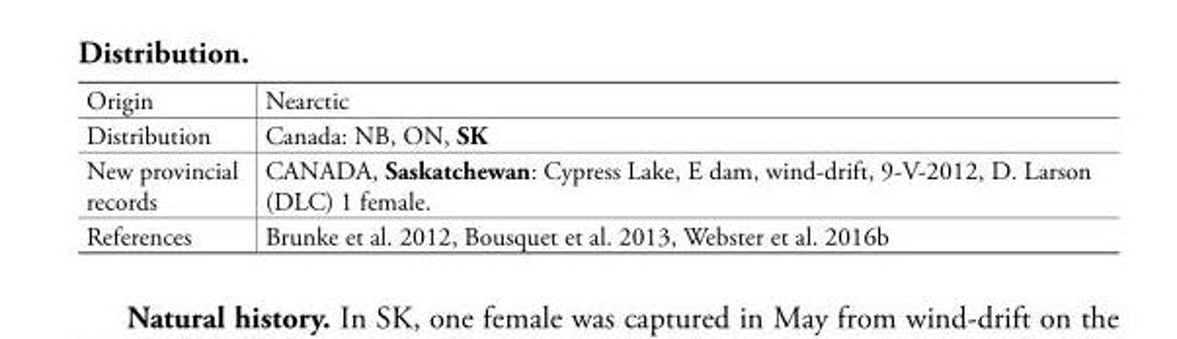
<table><tbody><tr><td>Origin</td><td>Nearctic</td></tr><tr><td>Distribution</td><td>Canada: NB, ON, SK</td></tr><tr><td>New provincial records</td><td>CANADA, Saskatchewan: Cypress Lake, E dam, wind-drift, 9-V-2012, D. Larson (DLC) 1 female.</td></tr><tr><td>References</td><td>Brunke et al. 2012, Bousquet et al. 2013, Webster et al. 2016b</td></tr></tbody></table>